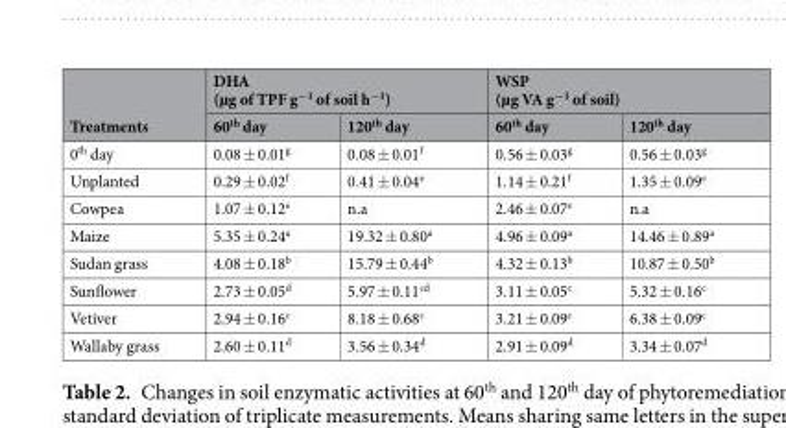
<table><thead><tr><td rowspan="2">Treatments</td><td colspan="2">DHA (µg of TPF g<sup>−1</sup> of soil h<sup>−1</sup>)</td><td colspan="2">WSP (µg VA g<sup>−1</sup> of soil)</td></tr><tr><td>60<sup>th</sup> day</td><td>120<sup>th</sup> day</td><td>60<sup>th</sup> day</td><td>120<sup>th</sup> day</td></tr></thead><tbody><tr><td>0<sup>th</sup> day</td><td>0.08 ± 0.01<sup>g</sup></td><td>0.08 ± 0.01<sup>f</sup></td><td>0.56 ± 0.03<sup>g</sup></td><td>0.56 ± 0.03<sup>g</sup></td></tr><tr><td>Unplanted</td><td>0.29 ± 0.02<sup>f</sup></td><td>0.41 ± 0.04<sup>e</sup></td><td>1.14 ± 0.21<sup>f</sup></td><td>1.35 ± 0.09<sup>e</sup></td></tr><tr><td>Cowpea</td><td>1.07 ± 0.12<sup>e</sup></td><td>n.a</td><td>2.46 ± 0.07<sup>e</sup></td><td>n.a</td></tr><tr><td>Maize</td><td>5.35 ± 0.24<sup>a</sup></td><td>19.32 ± 0.80<sup>a</sup></td><td>4.96 ± 0.09<sup>a</sup></td><td>14.46 ± 0.89<sup>a</sup></td></tr><tr><td>Sudan grass</td><td>4.08 ± 0.18<sup>b</sup></td><td>15.79 ± 0.44<sup>b</sup></td><td>4.32 ± 0.13<sup>b</sup></td><td>10.87 ± 0.50<sup>b</sup></td></tr><tr><td>Sunflower</td><td>2.73 ± 0.05<sup>d</sup></td><td>5.97 ± 0.11<sup>cd</sup></td><td>3.11 ± 0.05<sup>c</sup></td><td>5.32 ± 0.16<sup>c</sup></td></tr><tr><td>Vetiver</td><td>2.94 ± 0.16<sup>c</sup></td><td>8.18 ± 0.68<sup>c</sup></td><td>3.21 ± 0.09<sup>c</sup></td><td>6.38 ± 0.09<sup>c</sup></td></tr><tr><td>Wallaby grass</td><td>2.60 ± 0.11<sup>d</sup></td><td>3.56 ± 0.34<sup>d</sup></td><td>2.91 ± 0.09<sup>d</sup></td><td>3.34 ± 0.07<sup>d</sup></td></tr></tbody></table>